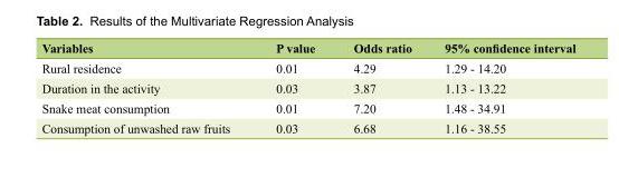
<table><thead><tr><td>Variables</td><td>P value</td><td>Odds ratio</td><td>95% confidence interval</td></tr></thead><tbody><tr><td>Rural residence</td><td>0.01</td><td>4.29</td><td>1.29 - 14.20</td></tr><tr><td>Duration in the activity</td><td>0.03</td><td>3.87</td><td>1.13 - 13.22</td></tr><tr><td>Snake meat consumption</td><td>0.01</td><td>7.20</td><td>1.48 - 34.91</td></tr><tr><td>Consumption of unwashed raw fruits</td><td>0.03</td><td>6.68</td><td>1.16 - 38.55</td></tr></tbody></table>